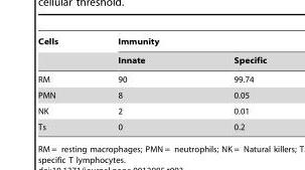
<table><thead><tr><td rowspan="2">Cells</td><td colspan="2">Immunity</td></tr><tr><td>Innate</td><td>Specific</td></tr></thead><tbody><tr><td>RM</td><td>90</td><td>99.74</td></tr><tr><td>PMN</td><td>8</td><td>0.05</td></tr><tr><td>NK</td><td>2</td><td>0.01</td></tr><tr><td>Ts</td><td>0</td><td>0.2</td></tr></tbody></table>